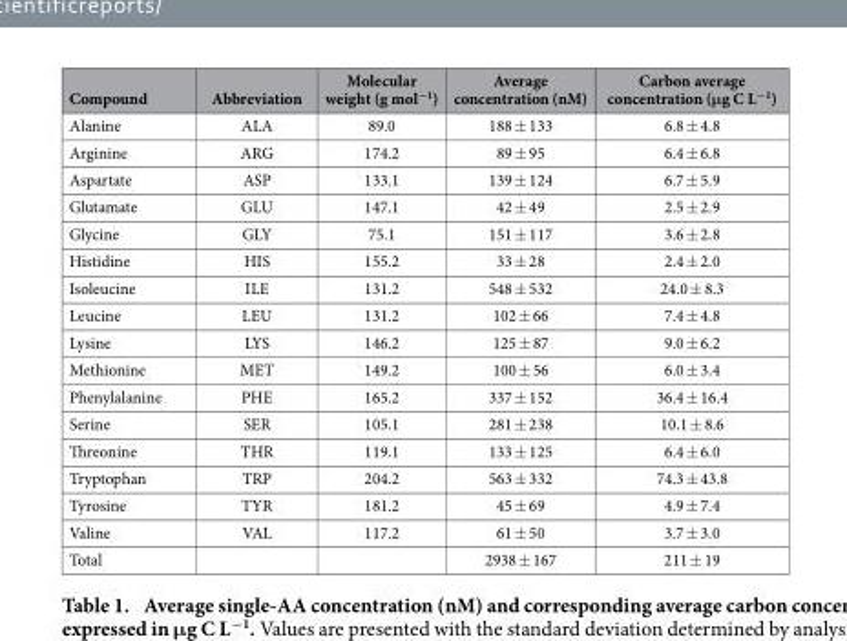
<table><thead><tr><td>Compound</td><td>Abbreviation</td><td>Molecular weight (g mol<sup>−1</sup>)</td><td>Average concentration (nM)</td><td>Carbon average concentration (μg C L<sup>−1</sup>)</td></tr></thead><tbody><tr><td>Alanine</td><td>ALA</td><td>89.0</td><td>188 ± 133</td><td>6.8 ± 4.8</td></tr><tr><td>Arginine</td><td>ARG</td><td>174.2</td><td>89 ± 95</td><td>6.4 ± 6.8</td></tr><tr><td>Aspartate</td><td>ASP</td><td>133.1</td><td>139 ± 124</td><td>6.7 ± 5.9</td></tr><tr><td>Glutamate</td><td>GLU</td><td>147.1</td><td>42 ± 49</td><td>2.5 ± 2.9</td></tr><tr><td>Glycine</td><td>GLY</td><td>75.1</td><td>151 ± 117</td><td>3.6 ± 2.8</td></tr><tr><td>Histidine</td><td>HIS</td><td>155.2</td><td>33 ± 28</td><td>2.4 ± 2.0</td></tr><tr><td>Isoleucine</td><td>ILE</td><td>131.2</td><td>548 ± 532</td><td>24.0 ± 8.3</td></tr><tr><td>Leucine</td><td>LEU</td><td>131.2</td><td>102 ± 66</td><td>7.4 ± 4.8</td></tr><tr><td>Lysine</td><td>LYS</td><td>146.2</td><td>125 ± 87</td><td>9.0 ± 6.2</td></tr><tr><td>Methionine</td><td>MET</td><td>149.2</td><td>100 ± 56</td><td>6.0 ± 3.4</td></tr><tr><td>Phenylalanine</td><td>PHE</td><td>165.2</td><td>337 ± 152</td><td>36.4 ± 16.4</td></tr><tr><td>Serine</td><td>SER</td><td>105.1</td><td>281 ± 238</td><td>10.1 ± 8.6</td></tr><tr><td>Threonine</td><td>THR</td><td>119.1</td><td>133 ± 125</td><td>6.4 ± 6.0</td></tr><tr><td>Tryptophan</td><td>TRP</td><td>204.2</td><td>563 ± 332</td><td>74.3 ± 43.8</td></tr><tr><td>Tyrosine</td><td>TYR</td><td>181.2</td><td>45 ± 69</td><td>4.9 ± 7.4</td></tr><tr><td>Valine</td><td>VAL</td><td>117.2</td><td>61 ± 50</td><td>3.7 ± 3.0</td></tr><tr><td>Total</td><td></td><td></td><td>2938 ± 167</td><td>211 ± 19</td></tr></tbody></table>